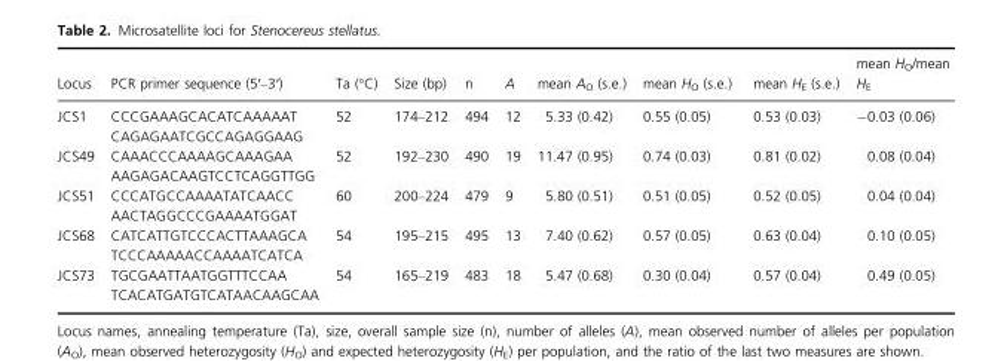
<table><thead><tr><td>Locus</td><td>PCR primer sequence (5′–3′)</td><td>Ta (°C)</td><td>Size (bp)</td><td>n</td><td>A</td><td>mean A<sub>O</sub> (s.e.)</td><td>mean H<sub>O</sub> (s.e.)</td><td>mean H<sub>E</sub> (s.e.)</td><td>mean H<sub>O</sub>/mean H<sub>E</sub></td></tr></thead><tbody><tr><td rowspan="2">JCS1</td><td>CCCGAAAGCACATCAAAAAT</td><td rowspan="2">52</td><td rowspan="2">174–212</td><td rowspan="2">494</td><td rowspan="2">12</td><td rowspan="2">5.33 (0.42)</td><td rowspan="2">0.55 (0.05)</td><td rowspan="2">0.53 (0.03)</td><td rowspan="2">−0.03 (0.06)</td></tr><tr><td>CAGAGAATCGCCAGAGGAAG</td></tr><tr><td rowspan="2">JCS49</td><td>CAAACCCAAAAGCAAAGAA</td><td rowspan="2">52</td><td rowspan="2">192–230</td><td rowspan="2">490</td><td rowspan="2">19</td><td rowspan="2">11.47 (0.95)</td><td rowspan="2">0.74 (0.03)</td><td rowspan="2">0.81 (0.02)</td><td rowspan="2">0.08 (0.04)</td></tr><tr><td>AAGAGACAAGTCCTCAGGTTGG</td></tr><tr><td rowspan="2">JCS51</td><td>CCCATGCCAAAATATCAACC</td><td rowspan="2">60</td><td rowspan="2">200–224</td><td rowspan="2">479</td><td rowspan="2">9</td><td rowspan="2">5.80 (0.51)</td><td rowspan="2">0.51 (0.05)</td><td rowspan="2">0.52 (0.05)</td><td rowspan="2">0.04 (0.04)</td></tr><tr><td>AACTAGGCCCGAAAATGGAT</td></tr><tr><td rowspan="2">JCS68</td><td>CATCATTGTCCCACTTAAAGCA</td><td rowspan="2">54</td><td rowspan="2">195–215</td><td rowspan="2">495</td><td rowspan="2">13</td><td rowspan="2">7.40 (0.62)</td><td rowspan="2">0.57 (0.05)</td><td rowspan="2">0.63 (0.04)</td><td rowspan="2">0.10 (0.05)</td></tr><tr><td>TCCCAAAAACCAAAATCATCA</td></tr><tr><td rowspan="2">JCS73</td><td>TGCGAATTAATGGTTTCCAA</td><td rowspan="2">54</td><td rowspan="2">165–219</td><td rowspan="2">483</td><td rowspan="2">18</td><td rowspan="2">5.47 (0.68)</td><td rowspan="2">0.30 (0.04)</td><td rowspan="2">0.57 (0.04)</td><td rowspan="2">0.49 (0.05)</td></tr><tr><td>TCACATGATGTCATAACAAGCAA</td></tr></tbody></table>